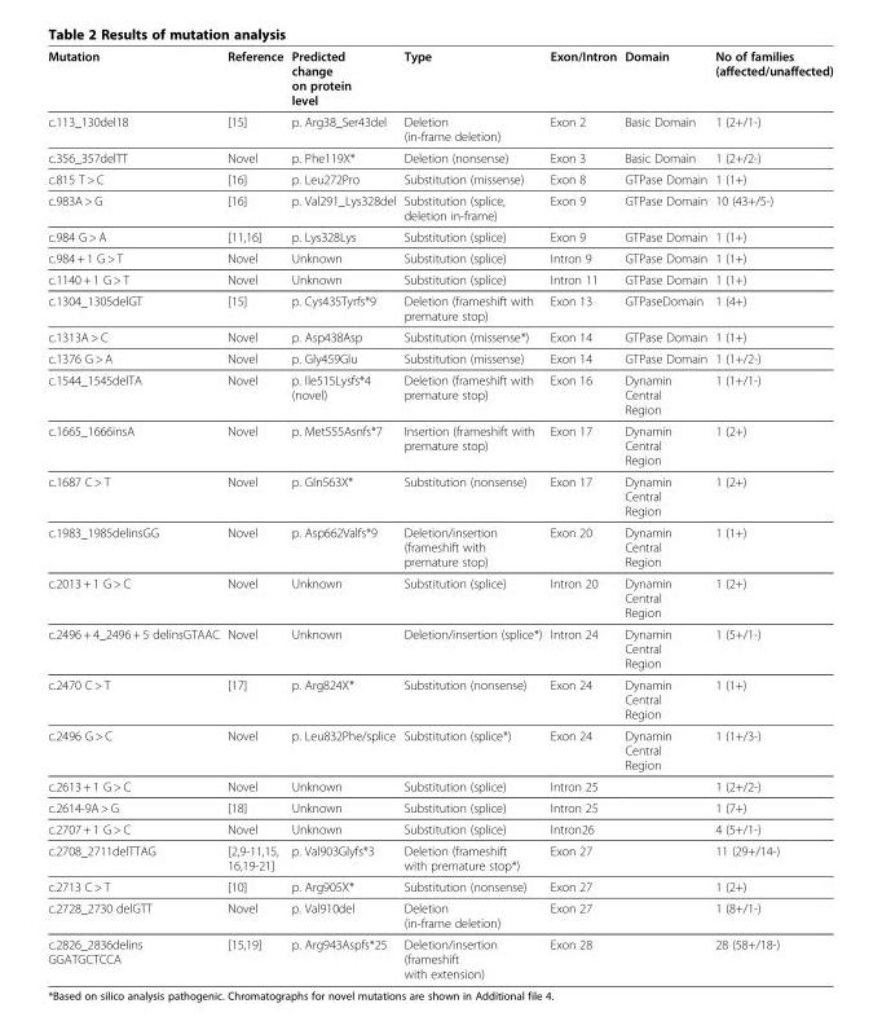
<table><thead><tr><td>Mutation</td><td>Reference</td><td>Predicted change on protein level</td><td>Type</td><td>Exon/Intron</td><td>Domain</td><td>No of families (affected/unaffected)</td></tr></thead><tbody><tr><td>c.113_130del18</td><td>[15]</td><td>p. Arg38_Ser43del</td><td>Deletion (in-frame deletion)</td><td>Exon 2</td><td>Basic Domain</td><td>1 (2+/1-)</td></tr><tr><td>c.356_357delTT</td><td>Novel</td><td>p. Phe119X*</td><td>Deletion (nonsense)</td><td>Exon 3</td><td>Basic Domain</td><td>1 (2+/2-)</td></tr><tr><td>c.815 T &gt; C</td><td>[16]</td><td>p. Leu272Pro</td><td>Substitution (missense)</td><td>Exon 8</td><td>GTPase Domain</td><td>1 (1+)</td></tr><tr><td>c.983A &gt; G</td><td>[16]</td><td>p. Val291_Lys328del</td><td>Substitution (splice, deletion in-frame)</td><td>Exon 9</td><td>GTPase Domain</td><td>10 (43+/5-)</td></tr><tr><td>c.984 G &gt; A</td><td>[11,16]</td><td>p. Lys328Lys</td><td>Substitution (splice)</td><td>Exon 9</td><td>GTPase Domain</td><td>1 (1+)</td></tr><tr><td>c.984 + 1 G &gt; T</td><td>Novel</td><td>Unknown</td><td>Substitution (splice)</td><td>Intron 9</td><td>GTPase Domain</td><td>1 (1+)</td></tr><tr><td>c.1140 + 1 G &gt; T</td><td>Novel</td><td>Unknown</td><td>Substitution (splice)</td><td>Intron 11</td><td>GTPase Domain</td><td>1 (1+)</td></tr><tr><td>c.1304_1305delGT</td><td>[15]</td><td>p. Cys435Tyrfs*9</td><td>Deletion (frameshift with premature stop)</td><td>Exon 13</td><td>GTPaseDomain</td><td>1 (4+)</td></tr><tr><td>c.1313A &gt; C</td><td>Novel</td><td>p. Asp438Asp</td><td>Substitution (missense*)</td><td>Exon 14</td><td>GTPase Domain</td><td>1 (1+)</td></tr><tr><td>c.1376 G &gt; A</td><td>Novel</td><td>p. Gly459Glu</td><td>Substitution (missense)</td><td>Exon 14</td><td>GTPase Domain</td><td>1 (1+/2-)</td></tr><tr><td>c.1544_1545delTA</td><td>Novel</td><td>p. Ile515Lysfs*4 (novel)</td><td>Deletion (frameshift with premature stop)</td><td>Exon 16</td><td>Dynamin Central Region</td><td>1 (1+/1-)</td></tr><tr><td>c.1665_1666insA</td><td>Novel</td><td>p. Met555Asnfs*7</td><td>Insertion (frameshift with premature stop)</td><td>Exon 17</td><td>Dynamin Central Region</td><td>1 (2+)</td></tr><tr><td>c.1687 C &gt; T</td><td>Novel</td><td>p. Gln563X*</td><td>Substitution (nonsense)</td><td>Exon 17</td><td>Dynamin Central Region</td><td>1 (2+)</td></tr><tr><td>c.1983_1985delinsGG</td><td>Novel</td><td>p. Asp662Valfs*9</td><td>Deletion/insertion (frameshift with premature stop)</td><td>Exon 20</td><td>Dynamin Central Region</td><td>1 (1+)</td></tr><tr><td>c.2013 + 1 G &gt; C</td><td>Novel</td><td>Unknown</td><td>Substitution (splice)</td><td>Intron 20</td><td>Dynamin Central Region</td><td>1 (2+)</td></tr><tr><td>c.2496 + 4_2496 + 5 delinsGTAAC</td><td>Novel</td><td>Unknown</td><td>Deletion/insertion (splice*)</td><td>Intron 24</td><td>Dynamin Central Region</td><td>1 (5+/1-)</td></tr><tr><td>c.2470 C &gt; T</td><td>[17]</td><td>p. Arg824X*</td><td>Substitution (nonsense)</td><td>Exon 24</td><td>Dynamin Central Region</td><td>1 (1+)</td></tr><tr><td>c.2496 G &gt; C</td><td>Novel</td><td>p. Leu832Phe/splice</td><td>Substitution (splice*)</td><td>Exon 24</td><td>Dynamin Central Region</td><td>1 (1+/3-)</td></tr><tr><td>c.2613 + 1 G &gt; C</td><td>Novel</td><td>Unknown</td><td>Substitution (splice)</td><td>Intron 25</td><td></td><td>1 (2+/2-)</td></tr><tr><td>c.2614-9A &gt; G</td><td>[18]</td><td>Unknown</td><td>Substitution (splice)</td><td>Intron 25</td><td></td><td>1 (7+)</td></tr><tr><td>c.2707 + 1 G &gt; C</td><td>Novel</td><td>Unknown</td><td>Substitution (splice)</td><td>Intron26</td><td></td><td>4 (5+/1-)</td></tr><tr><td>c.2708_2711delTTAG</td><td>[2,9-11,15, 16,19-21]</td><td>p. Val903Glyfs*3</td><td>Deletion (frameshift with premature stop*)</td><td>Exon 27</td><td></td><td>11 (29+/14-)</td></tr><tr><td>c.2713 C &gt; T</td><td>[10]</td><td>p. Arg905X*</td><td>Substitution (nonsense)</td><td>Exon 27</td><td></td><td>1 (2+)</td></tr><tr><td>c.2728_2730 delGTT</td><td>Novel</td><td>p. Val910del</td><td>Deletion (in-frame deletion)</td><td>Exon 27</td><td></td><td>1 (8+/1-)</td></tr><tr><td>c.2826_2836delins GGATGCTCCA</td><td>[15,19]</td><td>p. Arg943Aspfs*25</td><td>Deletion/insertion (frameshift with extension)</td><td>Exon 28</td><td></td><td>28 (58+/18-)</td></tr></tbody></table>